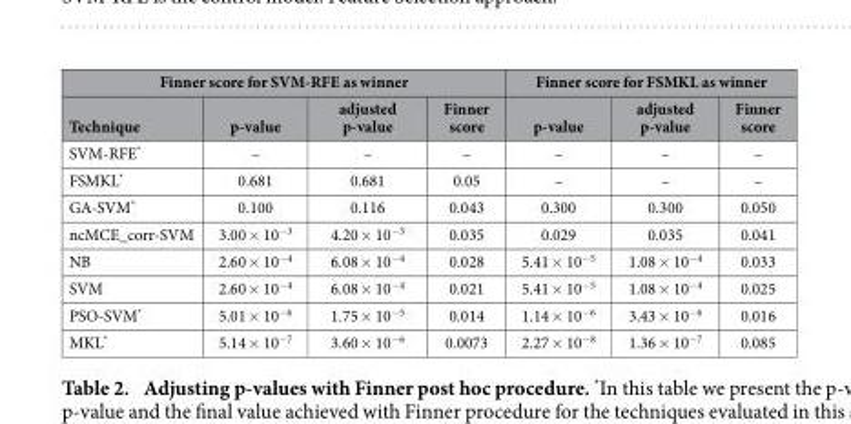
<table><thead><tr><td colspan="4">Finner score for SVM-RFE as winner</td><td colspan="3">Finner score for FSMKL as winner</td></tr><tr><td>Technique</td><td>p-value</td><td>adjusted p-value</td><td>Finner score</td><td>p-value</td><td>adjusted p-value</td><td>Finner score</td></tr></thead><tbody><tr><td>SVM-RFE*</td><td>–</td><td>–</td><td>–</td><td>–</td><td>–</td><td>–</td></tr><tr><td>FSMKL*</td><td>0.681</td><td>0.681</td><td>0.05</td><td>–</td><td>–</td><td>–</td></tr><tr><td>GA-SVM*</td><td>0.100</td><td>0.116</td><td>0.043</td><td>0.300</td><td>0.300</td><td>0.050</td></tr><tr><td>ncMCE_corr-SVM</td><td>3.00 × 10<sup>−3</sup></td><td>4.20 × 10<sup>−3</sup></td><td>0.035</td><td>0.029</td><td>0.035</td><td>0.041</td></tr><tr><td>NB</td><td>2.60 × 10<sup>−4</sup></td><td>6.08 × 10<sup>−4</sup></td><td>0.028</td><td>5.41 × 10<sup>−5</sup></td><td>1.08 × 10<sup>−4</sup></td><td>0.033</td></tr><tr><td>SVM</td><td>2.60 × 10<sup>−4</sup></td><td>6.08 × 10<sup>−4</sup></td><td>0.021</td><td>5.41 × 10<sup>−5</sup></td><td>1.08 × 10<sup>−4</sup></td><td>0.025</td></tr><tr><td>PSO-SVM*</td><td>5.01 × 10<sup>−6</sup></td><td>1.75 × 10<sup>−5</sup></td><td>0.014</td><td>1.14 × 10<sup>−6</sup></td><td>3.43 × 10<sup>−6</sup></td><td>0.016</td></tr><tr><td>MKL*</td><td>5.14 × 10<sup>−7</sup></td><td>3.60 × 10<sup>−6</sup></td><td>0.0073</td><td>2.27 × 10<sup>−8</sup></td><td>1.36 × 10<sup>−7</sup></td><td>0.085</td></tr></tbody></table>